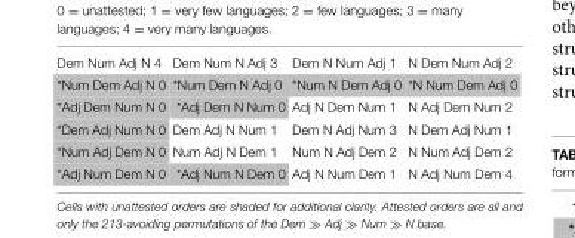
<table><tbody><tr><td>Dem Num Adj N 4</td><td>Dem Num N Adj 3</td><td>Dem N Num Adj 1</td><td>N Dem Num Adj 2</td></tr><tr><td>*Num Dem Adj N 0</td><td>*Num Dem N Adj 0</td><td>*Num N Dem Adj 0</td><td>*N Num Dem Adj 0</td></tr><tr><td>*Adj Dem Num N 0</td><td>*Adj Dem N Num 0</td><td>Adj N Dem Num 1</td><td>N Adj Dem Num 2</td></tr><tr><td>*Dem Adj Num N 0</td><td>Dem Adj N Num 1</td><td>Dem N Adj Num 3</td><td>N Dem Adj Num 1</td></tr><tr><td>*Num Adj Dem N 0</td><td>Num Adj N Dem 1</td><td>Num N Adj Dem 2</td><td>N Num Adj Dem 2</td></tr><tr><td>*Adj Num Dem N 0</td><td>*Adj Num N Dem 0</td><td>Adj N Num Dem 1</td><td>N Adj Num Dem 4</td></tr></tbody></table>